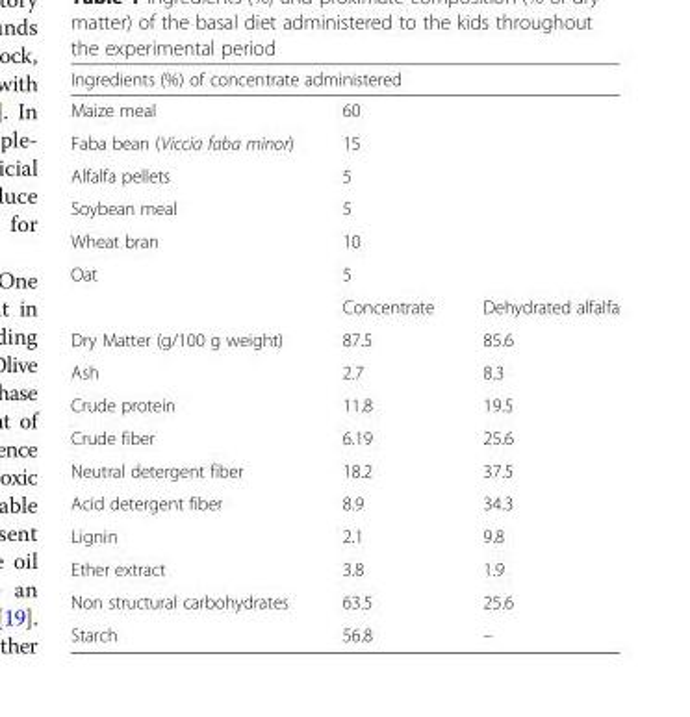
<table><thead><tr><td colspan="3">Ingredients (%) of concentrate administered</td></tr><tr><td>Maize meal</td><td>60</td><td></td></tr></thead><tbody><tr><td>Faba bean (Viccia faba minor)</td><td>15</td><td></td></tr><tr><td>Alfalfa pellets</td><td>5</td><td></td></tr><tr><td>Soybean meal</td><td>5</td><td></td></tr><tr><td>Wheat bran</td><td>10</td><td></td></tr><tr><td rowspan="2">Oat</td><td>5</td><td></td></tr><tr><td>Concentrate</td><td>Dehydrated alfalfa</td></tr><tr><td>Dry Matter (g/100 g weight)</td><td>87.5</td><td>85.6</td></tr><tr><td>Ash</td><td>2.7</td><td>8.3</td></tr><tr><td>Crude protein</td><td>11.8</td><td>19.5</td></tr><tr><td>Crude fiber</td><td>6.19</td><td>25.6</td></tr><tr><td>Neutral detergent fiber</td><td>18.2</td><td>37.5</td></tr><tr><td>Acid detergent fiber</td><td>8.9</td><td>34.3</td></tr><tr><td>Lignin</td><td>2.1</td><td>9.8</td></tr><tr><td>Ether extract</td><td>3.8</td><td>1.9</td></tr><tr><td>Non structural carbohydrates</td><td>63.5</td><td>25.6</td></tr><tr><td>Starch</td><td>56.8</td><td>–</td></tr></tbody></table>